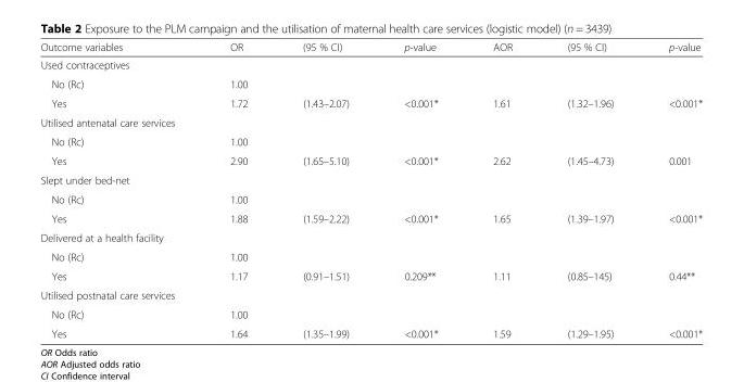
<table><thead><tr><td>Outcome variables</td><td>OR</td><td>(95 % CI)</td><td>p-value</td><td>AOR</td><td>(95 % CI)</td><td>p-value</td></tr></thead><tbody><tr><td colspan="7">Used contraceptives</td></tr><tr><td>No (Rc)</td><td>1.00</td><td></td><td></td><td></td><td></td><td></td></tr><tr><td>Yes</td><td>1.72</td><td>(1.43–2.07)</td><td>&lt;0.001*</td><td>1.61</td><td>(1.32–1.96)</td><td>&lt;0.001*</td></tr><tr><td colspan="7">Utilised antenatal care services</td></tr><tr><td>No (Rc)</td><td>1.00</td><td></td><td></td><td></td><td></td><td></td></tr><tr><td>Yes</td><td>2.90</td><td>(1.65–5.10)</td><td>&lt;0.001*</td><td>2.62</td><td>(1.45–4.73)</td><td>0.001</td></tr><tr><td colspan="7">Slept under bed-net</td></tr><tr><td>No (Rc)</td><td>1.00</td><td></td><td></td><td></td><td></td><td></td></tr><tr><td>Yes</td><td>1.88</td><td>(1.59–2.22)</td><td>&lt;0.001*</td><td>1.65</td><td>(1.39–1.97)</td><td>&lt;0.001*</td></tr><tr><td colspan="7">Delivered at a health facility</td></tr><tr><td>No (Rc)</td><td>1.00</td><td></td><td></td><td></td><td></td><td></td></tr><tr><td>Yes</td><td>1.17</td><td>(0.91–1.51)</td><td>0.209**</td><td>1.11</td><td>(0.85–145)</td><td>0.44**</td></tr><tr><td colspan="7">Utilised postnatal care services</td></tr><tr><td>No (Rc)</td><td>1.00</td><td></td><td></td><td></td><td></td><td></td></tr><tr><td>Yes</td><td>1.64</td><td>(1.35–1.99)</td><td>&lt;0.001*</td><td>1.59</td><td>(1.29–1.95)</td><td>&lt;0.001*</td></tr></tbody></table>